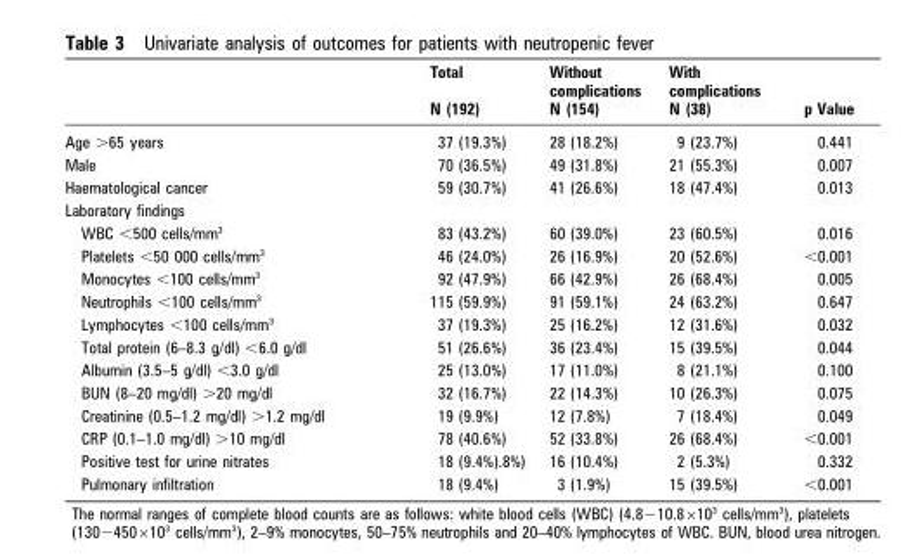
<table><thead><tr><td rowspan="3"></td><td rowspan="3">Total N (192)</td><td rowspan="3">Without complications N (154)</td><td rowspan="3">With complications N (38)</td><td rowspan="3">p Value</td></tr><tr></tr><tr></tr></thead><tbody><tr><td>Age &gt;65 years</td><td>37 (19.3%)</td><td>28 (18.2%)</td><td>9 (23.7%)</td><td>0.441</td></tr><tr><td>Male</td><td>70 (36.5%)</td><td>49 (31.8%)</td><td>21 (55.3%)</td><td>0.007</td></tr><tr><td>Haematological cancer</td><td>59 (30.7%)</td><td>41 (26.6%)</td><td>18 (47.4%)</td><td>0.013</td></tr><tr><td colspan="5">Laboratory findings</td></tr><tr><td>WBC &lt;500 cells/mm<sup>3</sup></td><td>83 (43.2%)</td><td>60 (39.0%)</td><td>23 (60.5%)</td><td>0.016</td></tr><tr><td>Platelets &lt;50 000 cells/mm<sup>3</sup></td><td>46 (24.0%)</td><td>26 (16.9%)</td><td>20 (52.6%)</td><td>&lt;0.001</td></tr><tr><td>Monocytes &lt;100 cells/mm<sup>3</sup></td><td>92 (47.9%)</td><td>66 (42.9%)</td><td>26 (68.4%)</td><td>0.005</td></tr><tr><td>Neutrophils &lt;100 cells/mm<sup>3</sup></td><td>115 (59.9%)</td><td>91 (59.1%)</td><td>24 (63.2%)</td><td>0.647</td></tr><tr><td>Lymphocytes &lt;100 cells/mm<sup>3</sup></td><td>37 (19.3%)</td><td>25 (16.2%)</td><td>12 (31.6%)</td><td>0.032</td></tr><tr><td>Total protein (6–8.3 g/dl) &lt;6.0 g/dl</td><td>51 (26.6%)</td><td>36 (23.4%)</td><td>15 (39.5%)</td><td>0.044</td></tr><tr><td>Albumin (3.5–5 g/dl) &lt;3.0 g/dl</td><td>25 (13.0%)</td><td>17 (11.0%)</td><td>8 (21.1%)</td><td>0.100</td></tr><tr><td>BUN (8–20 mg/dl) &gt;20 mg/dl</td><td>32 (16.7%)</td><td>22 (14.3%)</td><td>10 (26.3%)</td><td>0.075</td></tr><tr><td>Creatinine (0.5–1.2 mg/dl) &gt;1.2 mg/dl</td><td>19 (9.9%)</td><td>12 (7.8%)</td><td>7 (18.4%)</td><td>0.049</td></tr><tr><td>CRP (0.1–1.0 mg/dl) &gt;10 mg/dl</td><td>78 (40.6%)</td><td>52 (33.8%)</td><td>26 (68.4%)</td><td>&lt;0.001</td></tr><tr><td>Positive test for urine nitrates</td><td>18 (9.4%).8%)</td><td>16 (10.4%)</td><td>2 (5.3%)</td><td>0.332</td></tr><tr><td>Pulmonary infiltration</td><td>18 (9.4%)</td><td>3 (1.9%)</td><td>15 (39.5%)</td><td>&lt;0.001</td></tr></tbody></table>